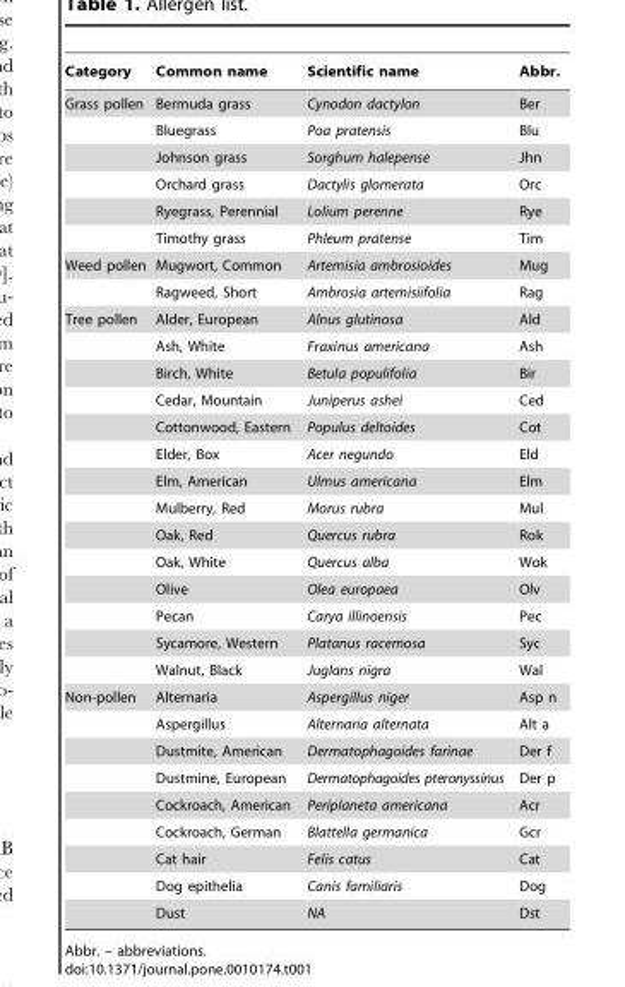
<table><thead><tr><td>Category</td><td>Common name</td><td>Scientific name</td><td>Abbr.</td></tr></thead><tbody><tr><td rowspan="6">Grass pollen</td><td>Bermuda grass</td><td>Cynodon dactylon</td><td>Ber</td></tr><tr><td>Bluegrass</td><td>Poa pratensis</td><td>Blu</td></tr><tr><td>Johnson grass</td><td>Sorghum halepense</td><td>Jhn</td></tr><tr><td>Orchard grass</td><td>Dactylis glomerata</td><td>Orc</td></tr><tr><td>Ryegrass, Perennial</td><td>Lolium perenne</td><td>Rye</td></tr><tr><td>Timothy grass</td><td>Phleum pratense</td><td>Tim</td></tr><tr><td rowspan="2">Weed pollen</td><td>Mugwort, Common</td><td>Artemisia ambrosioides</td><td>Mug</td></tr><tr><td>Ragweed, Short</td><td>Ambrosia artemisiifolia</td><td>Rag</td></tr><tr><td rowspan="14">Tree pollen</td><td>Alder, European</td><td>Alnus glutinosa</td><td>Ald</td></tr><tr><td>Ash, White</td><td>Fraxinus americana</td><td>Ash</td></tr><tr><td>Birch, White</td><td>Betula populifolia</td><td>Bir</td></tr><tr><td>Cedar, Mountain</td><td>Juniperus ashei</td><td>Ced</td></tr><tr><td>Cottonwood, Eastern</td><td>Populus deltoides</td><td>Cot</td></tr><tr><td>Elder, Box</td><td>Acer negundo</td><td>Eld</td></tr><tr><td>Elm, American</td><td>Ulmus americana</td><td>Elm</td></tr><tr><td>Mulberry, Red</td><td>Morus rubra</td><td>Mul</td></tr><tr><td>Oak, Red</td><td>Quercus rubra</td><td>Rok</td></tr><tr><td>Oak, White</td><td>Quercus alba</td><td>Wok</td></tr><tr><td>Olive</td><td>Olea europaea</td><td>Olv</td></tr><tr><td>Pecan</td><td>Carya illinoensis</td><td>Pec</td></tr><tr><td>Sycamore, Western</td><td>Platanus racemosa</td><td>Syc</td></tr><tr><td>Walnut, Black</td><td>Juglans nigra</td><td>Wal</td></tr><tr><td rowspan="9">Non-pollen</td><td>Alternaria</td><td>Aspergillus niger</td><td>Asp n</td></tr><tr><td>Aspergillus</td><td>Alternaria alternata</td><td>Alt a</td></tr><tr><td>Dustmite, American</td><td>Dermatophagoides farinae</td><td>Der f</td></tr><tr><td>Dustmine, European</td><td>Dermatophagoides pteronyssinus</td><td>Der p</td></tr><tr><td>Cockroach, American</td><td>Periplaneta americana</td><td>Acr</td></tr><tr><td>Cockroach, German</td><td>Blattella germanica</td><td>Gcr</td></tr><tr><td>Cat hair</td><td>Felis catus</td><td>Cat</td></tr><tr><td>Dog epithelia</td><td>Canis familiaris</td><td>Dog</td></tr><tr><td>Dust</td><td>NA</td><td>Dst</td></tr></tbody></table>